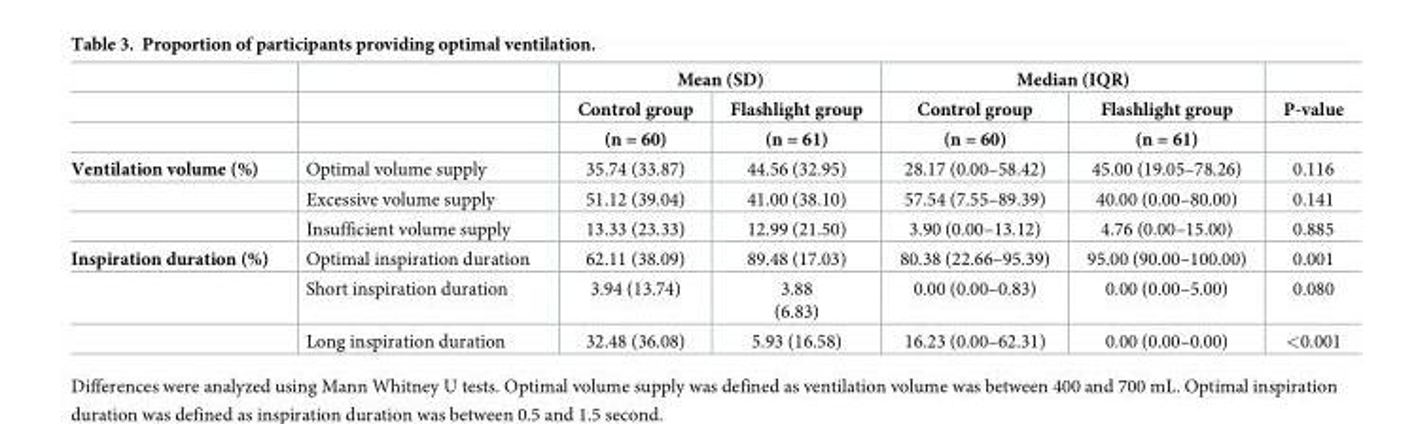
<table><thead><tr><td rowspan="3"></td><td rowspan="3"></td><td colspan="2">Mean (SD)</td><td colspan="2">Median (IQR)</td><td rowspan="3">P-value</td></tr><tr><td rowspan="2">Control group (n = 60)</td><td rowspan="2">Flashlight group (n = 61)</td><td rowspan="2">Control group (n = 60)</td><td rowspan="2">Flashlight group (n = 61)</td></tr><tr></tr></thead><tbody><tr><td rowspan="3">Ventilation volume (%)</td><td>Optimal volume supply</td><td>35.74 (33.87)</td><td>44.56 (32.95)</td><td>28.17 (0.00–58.42)</td><td>45.00 (19.05–78.26)</td><td>0.116</td></tr><tr><td>Excessive volume supply</td><td>51.12 (39.04)</td><td>41.00 (38.10)</td><td>57.54 (7.55–89.39)</td><td>40.00 (0.00–80.00)</td><td>0.141</td></tr><tr><td>Insufficient volume supply</td><td>13.33 (23.33)</td><td>12.99 (21.50)</td><td>3.90 (0.00–13.12)</td><td>4.76 (0.00–15.00)</td><td>0.885</td></tr><tr><td rowspan="3">Inspiration duration (%)</td><td>Optimal inspiration duration</td><td>62.11 (38.09)</td><td>89.48 (17.03)</td><td>80.38 (22.66–95.39)</td><td>95.00 (90.00–100.00)</td><td>0.001</td></tr><tr><td>Short inspiration duration</td><td>3.94 (13.74)</td><td>3.88 (6.83)</td><td>0.00 (0.00–0.83)</td><td>0.00 (0.00–5.00)</td><td>0.080</td></tr><tr><td>Long inspiration duration</td><td>32.48 (36.08)</td><td>5.93 (16.58)</td><td>16.23 (0.00–62.31)</td><td>0.00 (0.00–0.00)</td><td>&lt;0.001</td></tr></tbody></table>